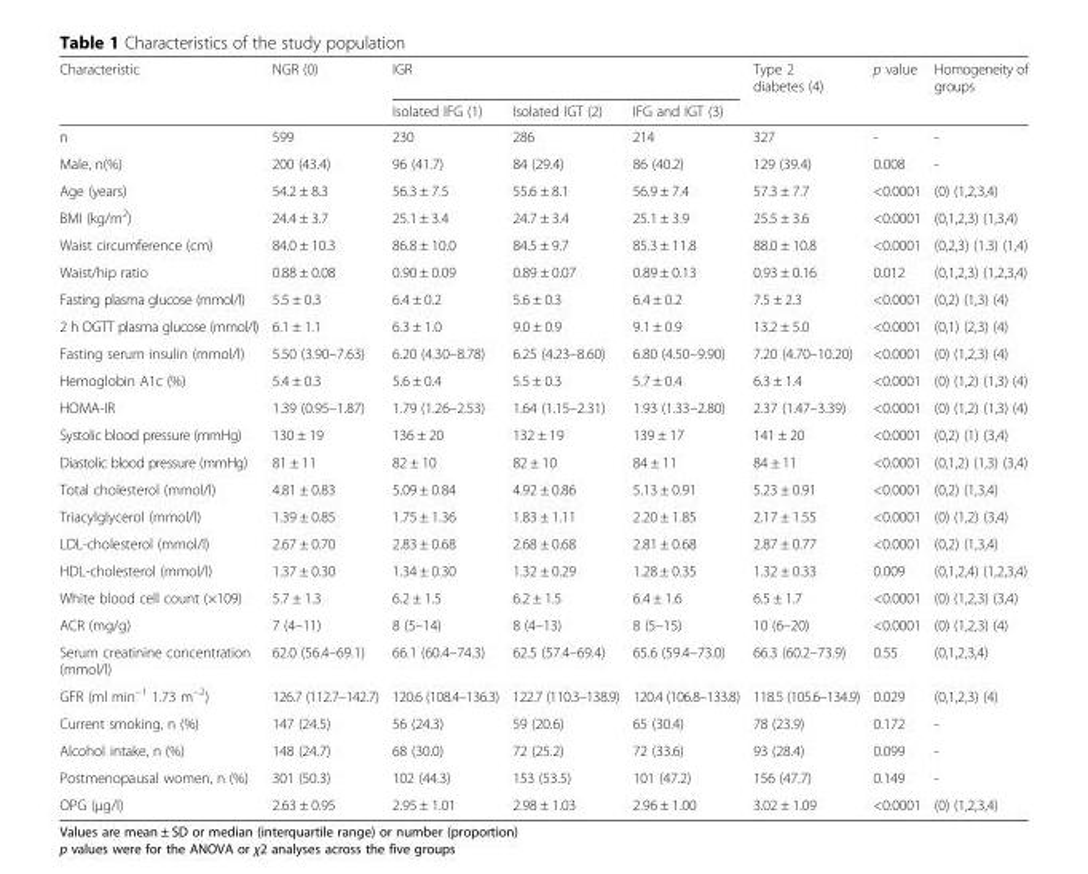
<table><thead><tr><td rowspan="2">Characteristic</td><td rowspan="2">NGR (0)</td><td colspan="3">IGR</td><td rowspan="2">Type 2 diabetes (4)</td><td rowspan="2">p value</td><td rowspan="2">Homogeneity of groups</td></tr><tr><td>Isolated IFG (1)</td><td>Isolated IGT (2)</td><td>IFG and IGT (3)</td></tr></thead><tbody><tr><td>n</td><td>599</td><td>230</td><td>286</td><td>214</td><td>327</td><td>-</td><td>-</td></tr><tr><td>Male, n(%)</td><td>200 (43.4)</td><td>96 (41.7)</td><td>84 (29.4)</td><td>86 (40.2)</td><td>129 (39.4)</td><td>0.008</td><td>-</td></tr><tr><td>Age (years)</td><td>54.2 ± 8.3</td><td>56.3 ± 7.5</td><td>55.6 ± 8.1</td><td>56.9 ± 7.4</td><td>57.3 ± 7.7</td><td>&lt;0.0001</td><td>(0) (1,2,3,4)</td></tr><tr><td>BMI (kg/m<sup>2</sup>)</td><td>24.4 ± 3.7</td><td>25.1 ± 3.4</td><td>24.7 ± 3.4</td><td>25.1 ± 3.9</td><td>25.5 ± 3.6</td><td>&lt;0.0001</td><td>(0,1,2,3) (1,3,4)</td></tr><tr><td>Waist circumference (cm)</td><td>84.0 ± 10.3</td><td>86.8 ± 10.0</td><td>84.5 ± 9.7</td><td>85.3 ± 11.8</td><td>88.0 ± 10.8</td><td>&lt;0.0001</td><td>(0,2,3) (1.3) (1,4)</td></tr><tr><td>Waist/hip ratio</td><td>0.88 ± 0.08</td><td>0.90 ± 0.09</td><td>0.89 ± 0.07</td><td>0.89 ± 0.13</td><td>0.93 ± 0.16</td><td>0.012</td><td>(0,1,2,3) (1,2,3,4)</td></tr><tr><td>Fasting plasma glucose (mmol/l)</td><td>5.5 ± 0.3</td><td>6.4 ± 0.2</td><td>5.6 ± 0.3</td><td>6.4 ± 0.2</td><td>7.5 ± 2.3</td><td>&lt;0.0001</td><td>(0,2) (1,3) (4)</td></tr><tr><td>2 h OGTT plasma glucose (mmol/l)</td><td>6.1 ± 1.1</td><td>6.3 ± 1.0</td><td>9.0 ± 0.9</td><td>9.1 ± 0.9</td><td>13.2 ± 5.0</td><td>&lt;0.0001</td><td>(0,1) (2,3) (4)</td></tr><tr><td>Fasting serum insulin (mmol/l)</td><td>5.50 (3.90–7.63)</td><td>6.20 (4.30–8.78)</td><td>6.25 (4.23–8.60)</td><td>6.80 (4.50–9.90)</td><td>7.20 (4.70–10.20)</td><td>&lt;0.0001</td><td>(0) (1,2,3) (4)</td></tr><tr><td>Hemoglobin A1c (%)</td><td>5.4 ± 0.3</td><td>5.6 ± 0.4</td><td>5.5 ± 0.3</td><td>5.7 ± 0.4</td><td>6.3 ± 1.4</td><td>&lt;0.0001</td><td>(0) (1,2) (1,3) (4)</td></tr><tr><td>HOMA-IR</td><td>1.39 (0.95–1.87)</td><td>1.79 (1.26–2.53)</td><td>1.64 (1.15–2.31)</td><td>1.93 (1.33–2.80)</td><td>2.37 (1.47–3.39)</td><td>&lt;0.0001</td><td>(0) (1,2) (1,3) (4)</td></tr><tr><td>Systolic blood pressure (mmHg)</td><td>130 ± 19</td><td>136 ± 20</td><td>132 ± 19</td><td>139 ± 17</td><td>141 ± 20</td><td>&lt;0.0001</td><td>(0,2) (1) (3,4)</td></tr><tr><td>Diastolic blood pressure (mmHg)</td><td>81 ± 11</td><td>82 ± 10</td><td>82 ± 10</td><td>84 ± 11</td><td>84 ± 11</td><td>&lt;0.0001</td><td>(0,1,2) (1,3) (3,4)</td></tr><tr><td>Total cholesterol (mmol/l)</td><td>4.81 ± 0.83</td><td>5.09 ± 0.84</td><td>4.92 ± 0.86</td><td>5.13 ± 0.91</td><td>5.23 ± 0.91</td><td>&lt;0.0001</td><td>(0,2) (1,3,4)</td></tr><tr><td>Triacylglycerol (mmol/l)</td><td>1.39 ± 0.85</td><td>1.75 ± 1.36</td><td>1.83 ± 1.11</td><td>2.20 ± 1.85</td><td>2.17 ± 1.55</td><td>&lt;0.0001</td><td>(0) (1,2) (3,4)</td></tr><tr><td>LDL-cholesterol (mmol/l)</td><td>2.67 ± 0.70</td><td>2.83 ± 0.68</td><td>2.68 ± 0.68</td><td>2.81 ± 0.68</td><td>2.87 ± 0.77</td><td>&lt;0.0001</td><td>(0,2) (1,3,4)</td></tr><tr><td>HDL-cholesterol (mmol/l)</td><td>1.37 ± 0.30</td><td>1.34 ± 0.30</td><td>1.32 ± 0.29</td><td>1.28 ± 0.35</td><td>1.32 ± 0.33</td><td>0.009</td><td>(0,1,2,4) (1,2,3,4)</td></tr><tr><td>White blood cell count (×109)</td><td>5.7 ± 1.3</td><td>6.2 ± 1.5</td><td>6.2 ± 1.5</td><td>6.4 ± 1.6</td><td>6.5 ± 1.7</td><td>&lt;0.0001</td><td>(0) (1,2,3) (3,4)</td></tr><tr><td>ACR (mg/g)</td><td>7 (4–11)</td><td>8 (5–14)</td><td>8 (4–13)</td><td>8 (5–15)</td><td>10 (6–20)</td><td>&lt;0.0001</td><td>(0) (1,2,3) (4)</td></tr><tr><td>Serum creatinine concentration (mmol/l)</td><td>62.0 (56.4–69.1)</td><td>66.1 (60.4–74.3)</td><td>62.5 (57.4–69.4)</td><td>65.6 (59.4–73.0)</td><td>66.3 (60.2–73.9)</td><td>0.55</td><td>(0,1,2,3,4)</td></tr><tr><td>GFR (ml min<sup>−1</sup> 1.73 m<sup>−2</sup>)</td><td>126.7 (112.7–142.7)</td><td>120.6 (108.4–136.3)</td><td>122.7 (110.3–138.9)</td><td>120.4 (106.8–133.8)</td><td>118.5 (105.6–134.9)</td><td>0.029</td><td>(0,1,2,3) (4)</td></tr><tr><td>Current smoking, n (%)</td><td>147 (24.5)</td><td>56 (24.3)</td><td>59 (20.6)</td><td>65 (30.4)</td><td>78 (23.9)</td><td>0.172</td><td>-</td></tr><tr><td>Alcohol intake, n (%)</td><td>148 (24.7)</td><td>68 (30.0)</td><td>72 (25.2)</td><td>72 (33.6)</td><td>93 (28.4)</td><td>0.099</td><td>-</td></tr><tr><td>Postmenopausal women, n (%)</td><td>301 (50.3)</td><td>102 (44.3)</td><td>153 (53.5)</td><td>101 (47.2)</td><td>156 (47.7)</td><td>0.149</td><td>-</td></tr><tr><td>OPG (μg/l)</td><td>2.63 ± 0.95</td><td>2.95 ± 1.01</td><td>2.98 ± 1.03</td><td>2.96 ± 1.00</td><td>3.02 ± 1.09</td><td>&lt;0.0001</td><td>(0) (1,2,3,4)</td></tr></tbody></table>